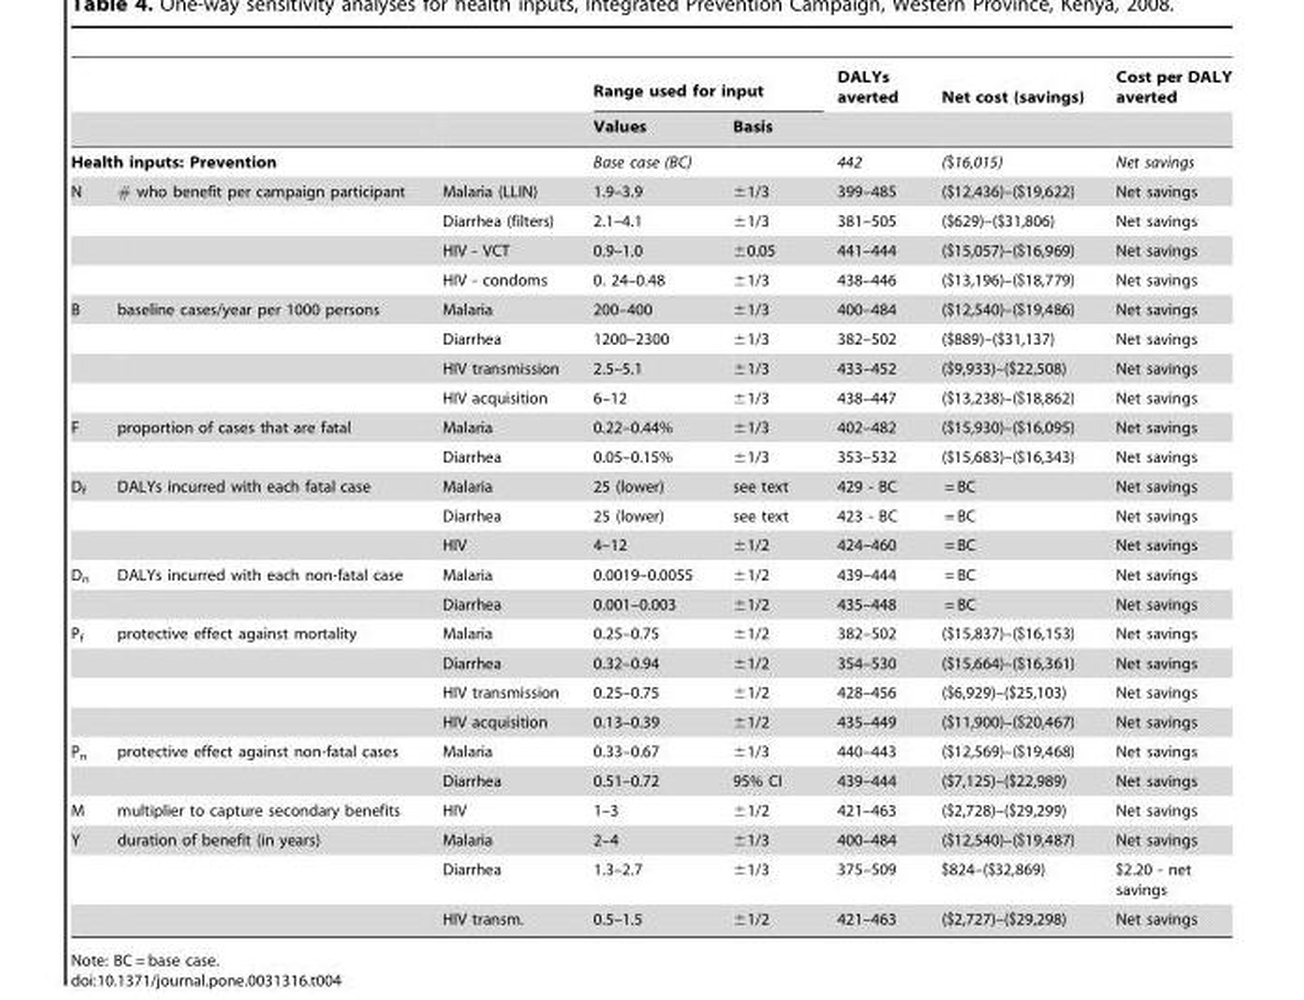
<table><thead><tr><td rowspan="2"></td><td rowspan="2"></td><td rowspan="2"></td><td colspan="2">Range used for input</td><td rowspan="2">DALYs averted</td><td rowspan="2">Net cost (savings)</td><td rowspan="2">Cost per DALY averted</td></tr><tr><td>Values</td><td>Basis</td></tr></thead><tbody><tr><td colspan="2">Health inputs: Prevention</td><td></td><td>Base case (BC)</td><td></td><td>442</td><td>($16,015)</td><td>Net savings</td></tr><tr><td rowspan="4">N</td><td># who benefit per campaign participant</td><td>Malaria (LLIN)</td><td>1.9–3.9</td><td>±1/3</td><td>399–485</td><td>($12,436)–($19,622)</td><td>Net savings</td></tr><tr><td></td><td>Diarrhea (filters)</td><td>2.1–4.1</td><td>±1/3</td><td>381–505</td><td>($629)–($31,806)</td><td>Net savings</td></tr><tr><td></td><td>HIV - VCT</td><td>0.9–1.0</td><td>±0.05</td><td>441–444</td><td>($15,057)–($16,969)</td><td>Net savings</td></tr><tr><td></td><td>HIV - condoms</td><td>0. 24–0.48</td><td>±1/3</td><td>438–446</td><td>($13,196)–($18,779)</td><td>Net savings</td></tr><tr><td rowspan="4">B</td><td>baseline cases/year per 1000 persons</td><td>Malaria</td><td>200–400</td><td>±1/3</td><td>400–484</td><td>($12,540)–($19,486)</td><td>Net savings</td></tr><tr><td></td><td>Diarrhea</td><td>1200–2300</td><td>±1/3</td><td>382–502</td><td>($889)–($31,137)</td><td>Net savings</td></tr><tr><td></td><td>HIV transmission</td><td>2.5–5.1</td><td>±1/3</td><td>433–452</td><td>($9,933)–($22,508)</td><td>Net savings</td></tr><tr><td></td><td>HIV acquisition</td><td>6–12</td><td>±1/3</td><td>438–447</td><td>($13,238)–($18,862)</td><td>Net savings</td></tr><tr><td rowspan="2">F</td><td>proportion of cases that are fatal</td><td>Malaria</td><td>0.22–0.44%</td><td>±1/3</td><td>402–482</td><td>($15,930)–($16,095)</td><td>Net savings</td></tr><tr><td></td><td>Diarrhea</td><td>0.05–0.15%</td><td>±1/3</td><td>353–532</td><td>($15,683)–($16,343)</td><td>Net savings</td></tr><tr><td rowspan="3">D<sub>f</sub></td><td>DALYs incurred with each fatal case</td><td>Malaria</td><td>25 (lower)</td><td>see text</td><td>429 - BC</td><td>= BC</td><td>Net savings</td></tr><tr><td></td><td>Diarrhea</td><td>25 (lower)</td><td>see text</td><td>423 - BC</td><td>= BC</td><td>Net savings</td></tr><tr><td></td><td>HIV</td><td>4–12</td><td>±1/2</td><td>424–460</td><td>= BC</td><td>Net savings</td></tr><tr><td rowspan="2">D<sub>n</sub></td><td>DALYs incurred with each non-fatal case</td><td>Malaria</td><td>0.0019–0.0055</td><td>±1/2</td><td>439–444</td><td>= BC</td><td>Net savings</td></tr><tr><td></td><td>Diarrhea</td><td>0.001–0.003</td><td>±1/2</td><td>435–448</td><td>= BC</td><td>Net savings</td></tr><tr><td rowspan="4">P<sub>f</sub></td><td>protective effect against mortality</td><td>Malaria</td><td>0.25–0.75</td><td>±1/2</td><td>382–502</td><td>($15,837)–($16,153)</td><td>Net savings</td></tr><tr><td></td><td>Diarrhea</td><td>0.32–0.94</td><td>±1/2</td><td>354–530</td><td>($15,664)–($16,361)</td><td>Net savings</td></tr><tr><td></td><td>HIV transmission</td><td>0.25–0.75</td><td>±1/2</td><td>428–456</td><td>($6,929)–($25,103)</td><td>Net savings</td></tr><tr><td></td><td>HIV acquisition</td><td>0.13–0.39</td><td>±1/2</td><td>435–449</td><td>($11,900)–($20,467)</td><td>Net savings</td></tr><tr><td rowspan="2">P<sub>n</sub></td><td>protective effect against non-fatal cases</td><td>Malaria</td><td>0.33–0.67</td><td>±1/3</td><td>440–443</td><td>($12,569)–($19,468)</td><td>Net savings</td></tr><tr><td></td><td>Diarrhea</td><td>0.51–0.72</td><td>95% CI</td><td>439–444</td><td>($7,125)–($22,989)</td><td>Net savings</td></tr><tr><td>M</td><td>multiplier to capture secondary benefits</td><td>HIV</td><td>1–3</td><td>±1/2</td><td>421–463</td><td>($2,728)–($29,299)</td><td>Net savings</td></tr><tr><td rowspan="3">Y</td><td>duration of benefit (in years)</td><td>Malaria</td><td>2–4</td><td>±1/3</td><td>400–484</td><td>($12,540)–($19,487)</td><td>Net savings</td></tr><tr><td></td><td>Diarrhea</td><td>1.3–2.7</td><td>±1/3</td><td>375–509</td><td>$824–($32,869)</td><td>$2.20 - net savings</td></tr><tr><td></td><td>HIV transm.</td><td>0.5–1.5</td><td>±1/2</td><td>421–463</td><td>($2,727)–($29,298)</td><td>Net savings</td></tr></tbody></table>